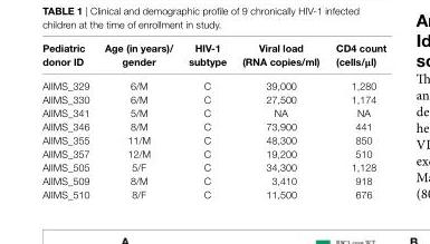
<table><thead><tr><td>Pediatric donor iD</td><td>age (in years)/ gender</td><td>hiV-1 subtype</td><td>Viral load (rna copies/ml)</td><td>cD4 count (cells/μl)</td></tr></thead><tbody><tr><td>AIIMS_329</td><td>6/M</td><td>C</td><td>39,000</td><td>1,280</td></tr><tr><td>AIIMS_330</td><td>6/M</td><td>C</td><td>27,500</td><td>1,174</td></tr><tr><td>AIIMS_341</td><td>5/M</td><td>C</td><td>NA</td><td>NA</td></tr><tr><td>AIIMS_346</td><td>8/M</td><td>C</td><td>73,900</td><td>441</td></tr><tr><td>AIIMS_355</td><td>11/M</td><td>C</td><td>48,300</td><td>850</td></tr><tr><td>AIIMS_357</td><td>12/M</td><td>C</td><td>19,200</td><td>510</td></tr><tr><td>AIIMS_505</td><td>5/F</td><td>C</td><td>34,300</td><td>1,128</td></tr><tr><td>AIIMS_509</td><td>8/M</td><td>C</td><td>3,410</td><td>918</td></tr><tr><td>AIIMS_510</td><td>8/F</td><td>C</td><td>11,500</td><td>676</td></tr></tbody></table>